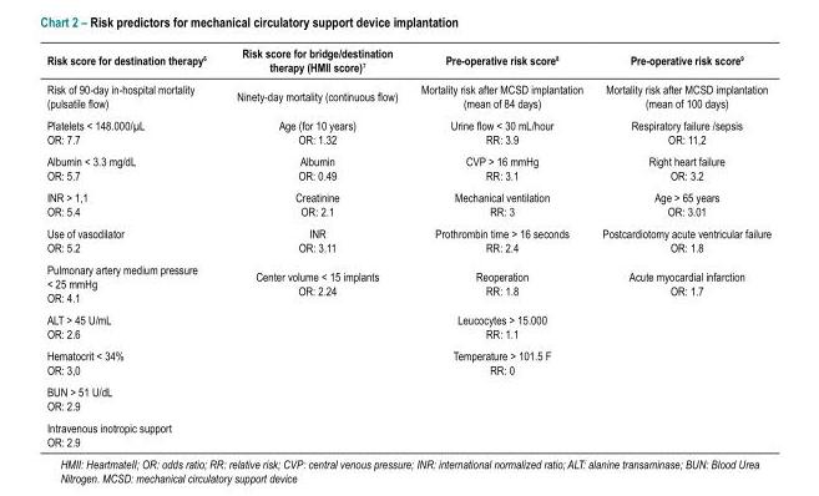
<table><thead><tr><td>Risk score for destination therapy<sup>6</sup></td><td>Risk score for bridge/destination therapy (HMII score)<sup>7</sup></td><td>Pre-operative risk score<sup>8</sup></td><td>Pre-operative risk score<sup>9</sup></td></tr></thead><tbody><tr><td>Risk of 90‑day in‑hospital mortality (pulsatile flow)</td><td>Ninety-day mortality (continuous flow)</td><td>Mortality risk after MCSD implantation (mean of 84 days)</td><td>Mortality risk after MCSD implantation (mean of 100 days)</td></tr><tr><td>Platelets &lt; 148.000/µL OR: 7.7</td><td>Age (for 10 years) OR: 1.32</td><td>Urine flow &lt; 30 mL/hour RR: 3.9</td><td>Respiratory failure /sepsis OR: 11,2</td></tr><tr><td>Albumin &lt; 3.3 mg/dL OR: 5.7</td><td>Albumin OR: 0.49</td><td>CVP &gt; 16 mmHg RR: 3.1</td><td>Right heart failure OR: 3.2</td></tr><tr><td>INR &gt; 1,1 OR: 5.4</td><td>Creatinine OR: 2.1</td><td>Mechanical ventilation RR: 3</td><td>Age &gt; 65 years OR: 3.01</td></tr><tr><td>Use of vasodilator OR: 5.2</td><td>INR OR: 3.11</td><td>Prothrombin time &gt; 16 seconds RR: 2.4</td><td>Postcardiotomy acute ventricular failure OR: 1.8</td></tr><tr><td>Pulmonary artery medium pressure &lt; 25 mmHg OR: 4.1</td><td>Center volume &lt; 15 implants OR: 2.24</td><td>Reoperation RR: 1.8</td><td>Acute myocardial infarction OR: 1.7</td></tr><tr><td>ALT &gt; 45 U/mL OR: 2.6</td><td></td><td>Leucocytes &gt; 15.000 RR: 1.1</td><td></td></tr><tr><td>Hematocrit &lt; 34% OR: 3,0</td><td></td><td>Temperature &gt; 101.5 F RR: 0</td><td></td></tr><tr><td colspan="4">BUN &gt; 51 U/dL OR: 2.9</td></tr><tr><td>Intravenous inotropic support OR: 2.9</td><td></td><td></td><td></td></tr></tbody></table>